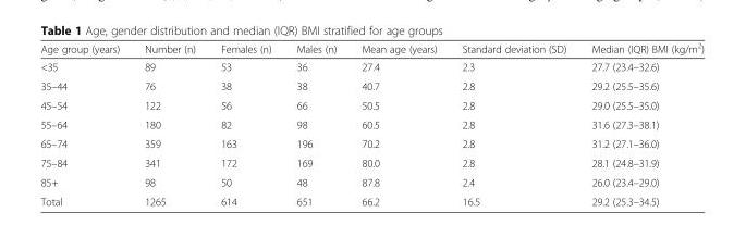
<table><thead><tr><td>Age group (years)</td><td>Number (n)</td><td>Females (n)</td><td>Males (n)</td><td>Mean age (years)</td><td>Standard deviation (SD)</td><td>Median (IQR) BMI (kg/m<sup>2</sup>)</td></tr></thead><tbody><tr><td>&lt;35</td><td>89</td><td>53</td><td>36</td><td>27.4</td><td>2.3</td><td>27.7 (23.4–32.6)</td></tr><tr><td>35–44</td><td>76</td><td>38</td><td>38</td><td>40.7</td><td>2.8</td><td>29.2 (25.5–35.6)</td></tr><tr><td>45–54</td><td>122</td><td>56</td><td>66</td><td>50.5</td><td>2.8</td><td>29.0 (25.5–35.0)</td></tr><tr><td>55–64</td><td>180</td><td>82</td><td>98</td><td>60.5</td><td>2.8</td><td>31.6 (27.3–38.1)</td></tr><tr><td>65–74</td><td>359</td><td>163</td><td>196</td><td>70.2</td><td>2.8</td><td>31.2 (27.1–36.0)</td></tr><tr><td>75–84</td><td>341</td><td>172</td><td>169</td><td>80.0</td><td>2.8</td><td>28.1 (24.8–31.9)</td></tr><tr><td>85+</td><td>98</td><td>50</td><td>48</td><td>87.8</td><td>2.4</td><td>26.0 (23.4–29.0)</td></tr><tr><td>Total</td><td>1265</td><td>614</td><td>651</td><td>66.2</td><td>16.5</td><td>29.2 (25.3–34.5)</td></tr></tbody></table>